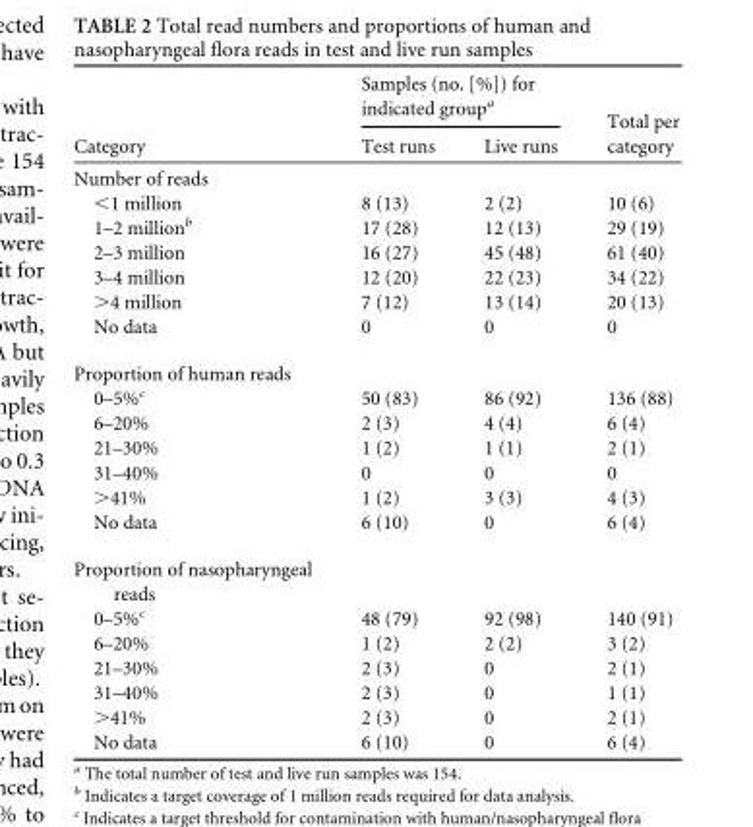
<table><thead><tr><td rowspan="2">Category</td><td colspan="2">Samples (no. [%]) for indicated group<sup>a</sup></td><td rowspan="2">Total per category</td></tr><tr><td>Test runs</td><td>Live runs</td></tr></thead><tbody><tr><td colspan="4">Number of reads</td></tr><tr><td>&lt;1 million</td><td>8 (13)</td><td>2 (2)</td><td>10 (6)</td></tr><tr><td>1–2 million<sup>b</sup></td><td>17 (28)</td><td>12 (13)</td><td>29 (19)</td></tr><tr><td>2–3 million</td><td>16 (27)</td><td>45 (48)</td><td>61 (40)</td></tr><tr><td>3–4 million</td><td>12 (20)</td><td>22 (23)</td><td>34 (22)</td></tr><tr><td>&gt;4 million</td><td>7 (12)</td><td>13 (14)</td><td>20 (13)</td></tr><tr><td>No data</td><td>0</td><td>0</td><td>0</td></tr><tr><td colspan="4">Proportion of human reads</td></tr><tr><td>0–5%<sup>c</sup></td><td>50 (83)</td><td>86 (92)</td><td>136 (88)</td></tr><tr><td>6–20%</td><td>2 (3)</td><td>4 (4)</td><td>6 (4)</td></tr><tr><td>21–30%</td><td>1 (2)</td><td>1 (1)</td><td>2 (1)</td></tr><tr><td>31–40%</td><td>0</td><td>0</td><td>0</td></tr><tr><td>&gt;41%</td><td>1 (2)</td><td>3 (3)</td><td>4 (3)</td></tr><tr><td>No data</td><td>6 (10)</td><td>0</td><td>6 (4)</td></tr><tr><td colspan="4">Proportion of nasopharyngeal reads</td></tr><tr><td>0–5%<sup>c</sup></td><td>48 (79)</td><td>92 (98)</td><td>140 (91)</td></tr><tr><td>6–20%</td><td>1 (2)</td><td>2 (2)</td><td>3 (2)</td></tr><tr><td>21–30%</td><td>2 (3)</td><td>0</td><td>2 (1)</td></tr><tr><td>31–40%</td><td>2 (3)</td><td>0</td><td>1 (1)</td></tr><tr><td>&gt;41%</td><td>2 (3)</td><td>0</td><td>2 (1)</td></tr><tr><td>No data</td><td>6 (10)</td><td>0</td><td>6 (4)</td></tr></tbody></table>